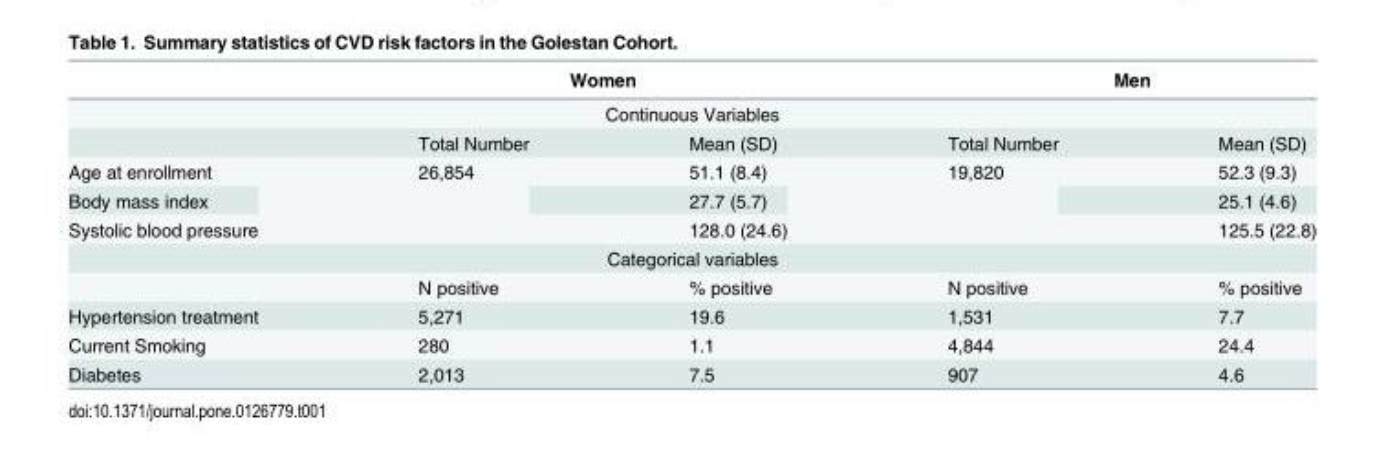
<table><thead><tr><td></td><td colspan="2">Women</td><td colspan="2">Men</td></tr><tr><td colspan="5">Continuous Variables</td></tr><tr><td></td><td>Total Number</td><td>Mean (SD)</td><td>Total Number</td><td>Mean (SD)</td></tr></thead><tbody><tr><td>Age at enrollment</td><td rowspan="3">26,854</td><td>51.1 (8.4)</td><td rowspan="3">19,820</td><td>52.3 (9.3)</td></tr><tr><td>Body mass index</td><td>27.7 (5.7)</td><td>25.1 (4.6)</td></tr><tr><td>Systolic blood pressure</td><td>128.0 (24.6)</td><td>125.5 (22.8)</td></tr><tr><td colspan="5">Categorical variables</td></tr><tr><td></td><td>N positive</td><td>% positive</td><td>N positive</td><td>% positive</td></tr><tr><td>Hypertension treatment</td><td>5,271</td><td>19.6</td><td>1,531</td><td>7.7</td></tr><tr><td>Current Smoking</td><td>280</td><td>1.1</td><td>4,844</td><td>24.4</td></tr><tr><td>Diabetes</td><td>2,013</td><td>7.5</td><td>907</td><td>4.6</td></tr></tbody></table>